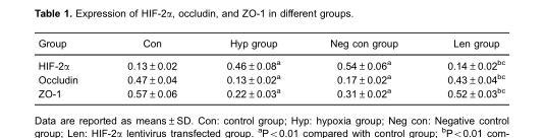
<table><thead><tr><td>Group</td><td>Con</td><td>Hyp group</td><td>Neg con group</td><td>Len group</td></tr></thead><tbody><tr><td>HIF-2α</td><td>0.13±0.02</td><td>0.46±0.08<sup>a</sup></td><td>0.54±0.06<sup>a</sup></td><td>0.14±0.02<sup>bc</sup></td></tr><tr><td>Occludin</td><td>0.47±0.04</td><td>0.13±0.02<sup>a</sup></td><td>0.17±0.02<sup>a</sup></td><td>0.43±0.04<sup>bc</sup></td></tr><tr><td>ZO-1</td><td>0.57±0.06</td><td>0.22±0.03<sup>a</sup></td><td>0.31±0.02<sup>a</sup></td><td>0.52±0.03<sup>bc</sup></td></tr></tbody></table>